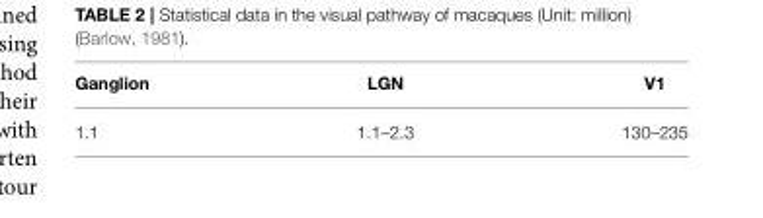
<table><thead><tr><td>Ganglion</td><td>LGN</td><td>V1</td></tr></thead><tbody><tr><td>1.1</td><td>1.1–2.3</td><td>130–235</td></tr></tbody></table>